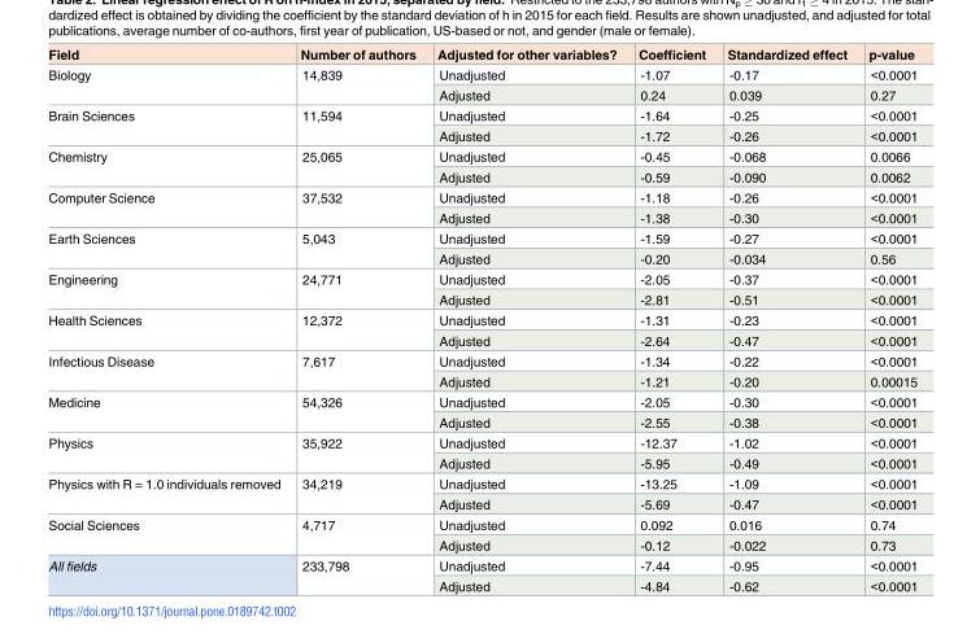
<table><thead><tr><td>Field</td><td>Number of authors</td><td>Adjusted for other variables?</td><td>Coefficient</td><td>Standardized effect</td><td>p-value</td></tr></thead><tbody><tr><td rowspan="2">Biology</td><td rowspan="2">14,839</td><td>Unadjusted</td><td>-1.07</td><td>-0.17</td><td>&lt;0.0001</td></tr><tr><td>Adjusted</td><td>0.24</td><td>0.039</td><td>0.27</td></tr><tr><td rowspan="2">Brain Sciences</td><td rowspan="2">11,594</td><td>Unadjusted</td><td>-1.64</td><td>-0.25</td><td>&lt;0.0001</td></tr><tr><td>Adjusted</td><td>-1.72</td><td>-0.26</td><td>&lt;0.0001</td></tr><tr><td rowspan="2">Chemistry</td><td rowspan="2">25,065</td><td>Unadjusted</td><td>-0.45</td><td>-0.068</td><td>0.0066</td></tr><tr><td>Adjusted</td><td>-0.59</td><td>-0.090</td><td>0.0062</td></tr><tr><td rowspan="2">Computer Science</td><td rowspan="2">37,532</td><td>Unadjusted</td><td>-1.18</td><td>-0.26</td><td>&lt;0.0001</td></tr><tr><td>Adjusted</td><td>-1.38</td><td>-0.30</td><td>&lt;0.0001</td></tr><tr><td rowspan="2">Earth Sciences</td><td rowspan="2">5,043</td><td>Unadjusted</td><td>-1.59</td><td>-0.27</td><td>&lt;0.0001</td></tr><tr><td>Adjusted</td><td>-0.20</td><td>-0.034</td><td>0.56</td></tr><tr><td rowspan="2">Engineering</td><td rowspan="2">24,771</td><td>Unadjusted</td><td>-2.05</td><td>-0.37</td><td>&lt;0.0001</td></tr><tr><td>Adjusted</td><td>-2.81</td><td>-0.51</td><td>&lt;0.0001</td></tr><tr><td rowspan="2">Health Sciences</td><td rowspan="2">12,372</td><td>Unadjusted</td><td>-1.31</td><td>-0.23</td><td>&lt;0.0001</td></tr><tr><td>Adjusted</td><td>-2.64</td><td>-0.47</td><td>&lt;0.0001</td></tr><tr><td rowspan="2">Infectious Disease</td><td rowspan="2">7,617</td><td>Unadjusted</td><td>-1.34</td><td>-0.22</td><td>&lt;0.0001</td></tr><tr><td>Adjusted</td><td>-1.21</td><td>-0.20</td><td>0.00015</td></tr><tr><td rowspan="2">Medicine</td><td rowspan="2">54,326</td><td>Unadjusted</td><td>-2.05</td><td>-0.30</td><td>&lt;0.0001</td></tr><tr><td>Adjusted</td><td>-2.55</td><td>-0.38</td><td>&lt;0.0001</td></tr><tr><td rowspan="2">Physics</td><td rowspan="2">35,922</td><td>Unadjusted</td><td>-12.37</td><td>-1.02</td><td>&lt;0.0001</td></tr><tr><td>Adjusted</td><td>-5.95</td><td>-0.49</td><td>&lt;0.0001</td></tr><tr><td rowspan="2">Physics with R = 1.0 individuals removed</td><td rowspan="2">34,219</td><td>Unadjusted</td><td>-13.25</td><td>-1.09</td><td>&lt;0.0001</td></tr><tr><td>Adjusted</td><td>-5.69</td><td>-0.47</td><td>&lt;0.0001</td></tr><tr><td rowspan="2">Social Sciences</td><td rowspan="2">4,717</td><td>Unadjusted</td><td>0.092</td><td>0.016</td><td>0.74</td></tr><tr><td>Adjusted</td><td>-0.12</td><td>-0.022</td><td>0.73</td></tr><tr><td rowspan="2">All fields</td><td rowspan="2">233,798</td><td>Unadjusted</td><td>-7.44</td><td>-0.95</td><td>&lt;0.0001</td></tr><tr><td>Adjusted</td><td>-4.84</td><td>-0.62</td><td>&lt;0.0001</td></tr></tbody></table>